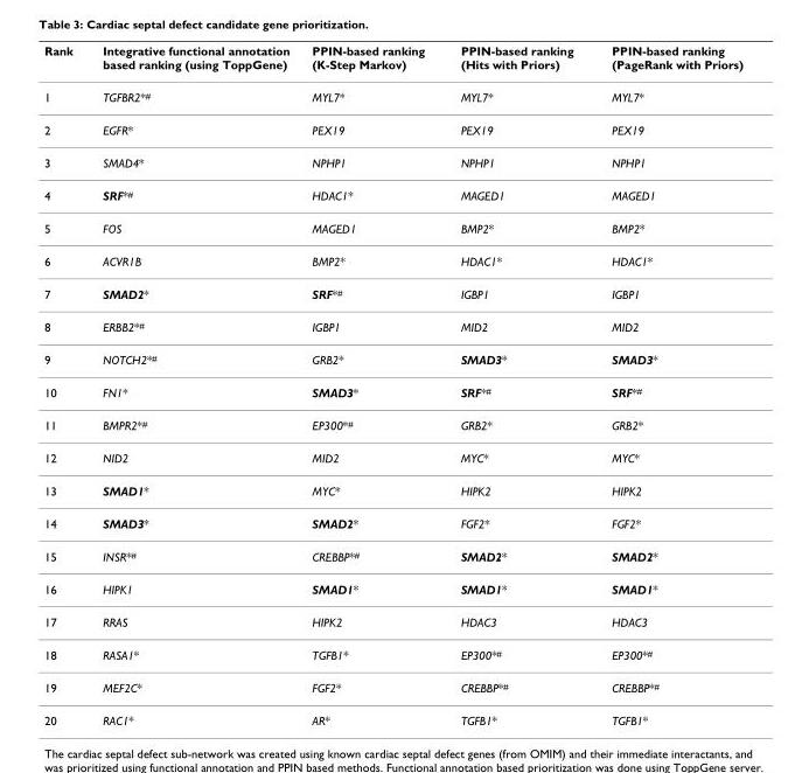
<table><thead><tr><td>Rank</td><td>Integrative functional annotation based ranking (using ToppGene)</td><td>PPIN-based ranking (K-Step Markov)</td><td>PPIN-based ranking (Hits with Priors)</td><td>PPIN-based ranking (PageRank with Priors)</td></tr></thead><tbody><tr><td>1</td><td>TGFBR2*<sup>#</sup></td><td>MYL7*</td><td>MYL7*</td><td>MYL7*</td></tr><tr><td>2</td><td>EGFR*</td><td>PEX19</td><td>PEX19</td><td>PEX19</td></tr><tr><td>3</td><td>SMAD4*</td><td>NPHP1</td><td>NPHP1</td><td>NPHP1</td></tr><tr><td>4</td><td>SRF*<sup>#</sup></td><td>HDAC1*</td><td>MAGED1</td><td>MAGED1</td></tr><tr><td>5</td><td>FOS</td><td>MAGED1</td><td>BMP2*</td><td>BMP2*</td></tr><tr><td>6</td><td>ACVR1B</td><td>BMP2*</td><td>HDAC1*</td><td>HDAC1*</td></tr><tr><td>7</td><td>SMAD2*</td><td>SRF*<sup>#</sup></td><td>IGBP1</td><td>IGBP1</td></tr><tr><td>8</td><td>ERBB2*<sup>#</sup></td><td>IGBP1</td><td>MID2</td><td>MID2</td></tr><tr><td>9</td><td>NOTCH2*<sup>#</sup></td><td>GRB2*</td><td>SMAD3*</td><td>SMAD3*</td></tr><tr><td>10</td><td>FN1*</td><td>SMAD3*</td><td>SRF*<sup>#</sup></td><td>SRF*<sup>#</sup></td></tr><tr><td>11</td><td>BMPR2*<sup>#</sup></td><td>EP300*<sup>#</sup></td><td>GRB2*</td><td>GRB2*</td></tr><tr><td>12</td><td>NID2</td><td>MID2</td><td>MYC*</td><td>MYC*</td></tr><tr><td>13</td><td>SMAD1*</td><td>MYC*</td><td>HIPK2</td><td>HIPK2</td></tr><tr><td>14</td><td>SMAD3*</td><td>SMAD2*</td><td>FGF2*</td><td>FGF2*</td></tr><tr><td>15</td><td>INSR*<sup>#</sup></td><td>CREBBP*<sup>#</sup></td><td>SMAD2*</td><td>SMAD2*</td></tr><tr><td>16</td><td>HIPK1</td><td>SMAD1*</td><td>SMAD1*</td><td>SMAD1*</td></tr><tr><td>17</td><td>RRAS</td><td>HIPK2</td><td>HDAC3</td><td>HDAC3</td></tr><tr><td>18</td><td>RASA1*</td><td>TGFB1*</td><td>EP300*<sup>#</sup></td><td>EP300*<sup>#</sup></td></tr><tr><td>19</td><td>MEF2C*</td><td>FGF2*</td><td>CREBBP*<sup>#</sup></td><td>CREBBP*<sup>#</sup></td></tr><tr><td>20</td><td>RAC1*</td><td>AR*</td><td>TGFB1*</td><td>TGFB1*</td></tr></tbody></table>